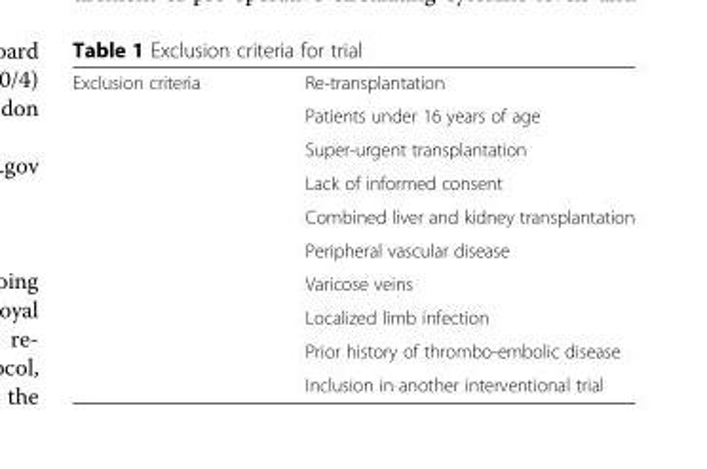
<table><tbody><tr><td rowspan="10">Exclusion criteria</td><td>Re-transplantation</td></tr><tr><td>Patients under 16 years of age</td></tr><tr><td>Super-urgent transplantation</td></tr><tr><td>Lack of informed consent</td></tr><tr><td>Combined liver and kidney transplantation</td></tr><tr><td>Peripheral vascular disease</td></tr><tr><td>Varicose veins</td></tr><tr><td>Localized limb infection</td></tr><tr><td>Prior history of thrombo-embolic disease</td></tr><tr><td>Inclusion in another interventional trial</td></tr></tbody></table>